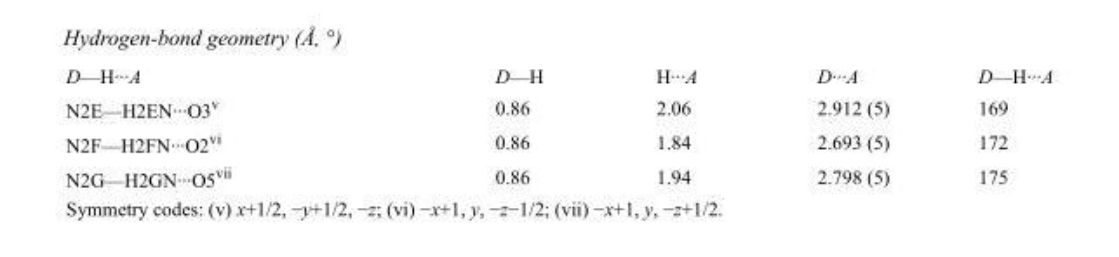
<table><tbody><tr><td>D—H···A</td><td>D—H</td><td>H···A</td><td>D···A</td><td>D—H···A</td></tr><tr><td>N2E—H2EN···O3<sup>v</sup></td><td>0.86</td><td>2.06</td><td>2.912 (5)</td><td>169</td></tr><tr><td>N2F—H2FN···O2<sup>vi</sup></td><td>0.86</td><td>1.84</td><td>2.693 (5)</td><td>172</td></tr><tr><td>N2G—H2GN···O5<sup>vii</sup></td><td>0.86</td><td>1.94</td><td>2.798 (5)</td><td>175</td></tr></tbody></table>